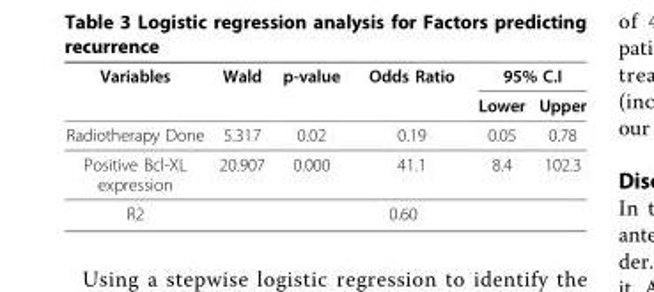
<table><thead><tr><td rowspan="2">Variables</td><td rowspan="2">Wald</td><td rowspan="2">p-value</td><td rowspan="2">Odds Ratio</td><td colspan="2">95% C.I</td></tr><tr><td>Lower</td><td>Upper</td></tr></thead><tbody><tr><td>Radiotherapy Done</td><td>5.317</td><td>0.02</td><td>0.19</td><td>0.05</td><td>0.78</td></tr><tr><td>Positive Bcl-XL expression</td><td>20.907</td><td>0.000</td><td>41.1</td><td>8.4</td><td>102.3</td></tr><tr><td>R2</td><td colspan="5">0.60</td></tr></tbody></table>